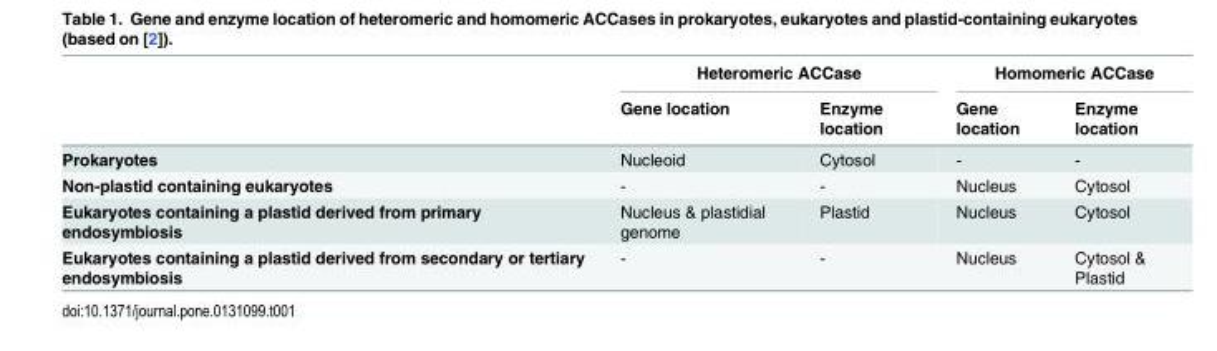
<table><thead><tr><td rowspan="2"></td><td colspan="2">Heteromeric ACCase</td><td colspan="2">Homomeric ACCase</td></tr><tr><td>Gene location</td><td>Enzyme location</td><td>Gene location</td><td>Enzyme location</td></tr></thead><tbody><tr><td>Prokaryotes</td><td>Nucleoid</td><td>Cytosol</td><td>-</td><td>-</td></tr><tr><td>Non-plastid containing eukaryotes</td><td>-</td><td>-</td><td>Nucleus</td><td>Cytosol</td></tr><tr><td>Eukaryotes containing a plastid derived from primary endosymbiosis</td><td>Nucleus &amp; plastidial genome</td><td>Plastid</td><td>Nucleus</td><td>Cytosol</td></tr><tr><td>Eukaryotes containing a plastid derived from secondary or tertiary endosymbiosis</td><td>-</td><td>-</td><td>Nucleus</td><td>Cytosol &amp; Plastid</td></tr></tbody></table>